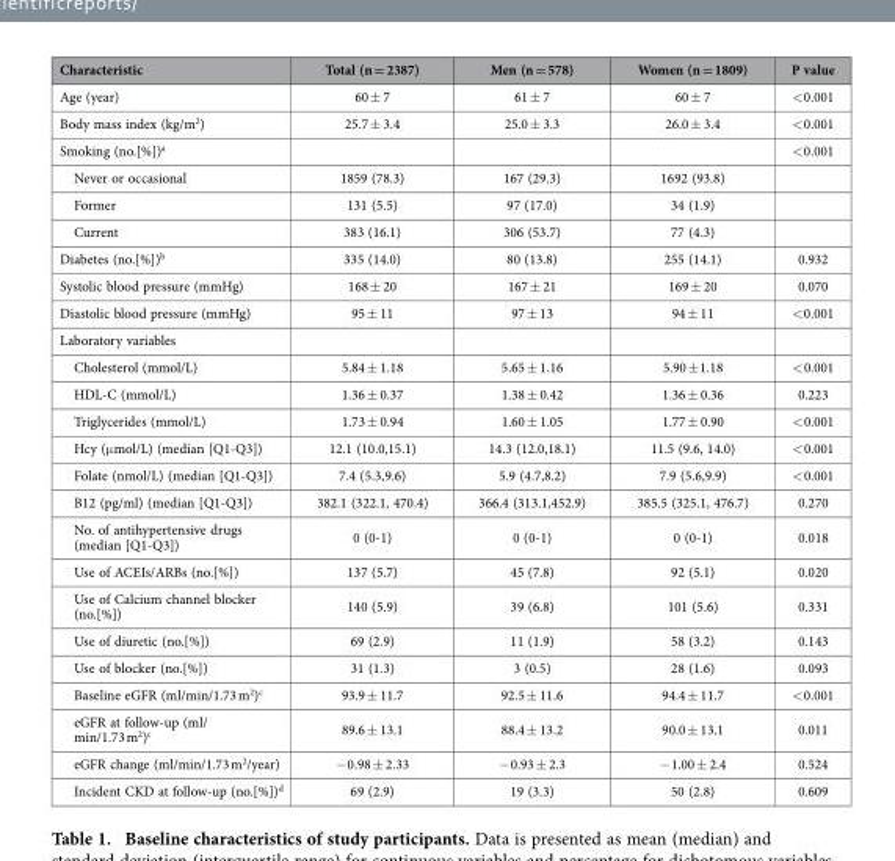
<table><thead><tr><td>Characteristic</td><td>Total (n = 2387)</td><td>Men (n = 578)</td><td>Women (n = 1809)</td><td>P value</td></tr></thead><tbody><tr><td>Age (year)</td><td>60 ± 7</td><td>61 ± 7</td><td>60 ± 7</td><td>&lt; 0.001</td></tr><tr><td>Body mass index (kg/m<sup>2</sup>)</td><td>25.7 ± 3.4</td><td>25.0 ± 3.3</td><td>26.0 ± 3.4</td><td>&lt; 0.001</td></tr><tr><td>Smoking (no.[%])<sup>a</sup></td><td></td><td></td><td></td><td>&lt; 0.001</td></tr><tr><td>Never or occasional</td><td>1859 (78.3)</td><td>167 (29.3)</td><td>1692 (93.8)</td><td></td></tr><tr><td>Former</td><td>131 (5.5)</td><td>97 (17.0)</td><td>34 (1.9)</td><td></td></tr><tr><td>Current</td><td>383 (16.1)</td><td>306 (53.7)</td><td>77 (4.3)</td><td></td></tr><tr><td>Diabetes (no.[%])<sup>b</sup></td><td>335 (14.0)</td><td>80 (13.8)</td><td>255 (14.1)</td><td>0.932</td></tr><tr><td>Systolic blood pressure (mmHg)</td><td>168 ± 20</td><td>167 ± 21</td><td>169 ± 20</td><td>0.070</td></tr><tr><td>Diastolic blood pressure (mmHg)</td><td>95 ± 11</td><td>97 ± 13</td><td>94 ± 11</td><td>&lt; 0.001</td></tr><tr><td colspan="5">Laboratory variables</td></tr><tr><td>Cholesterol (mmol/L)</td><td>5.84 ± 1.18</td><td>5.65 ± 1.16</td><td>5.90 ± 1.18</td><td>&lt; 0.001</td></tr><tr><td>HDL-C (mmol/L)</td><td>1.36 ± 0.37</td><td>1.38 ± 0.42</td><td>1.36 ± 0.36</td><td>0.223</td></tr><tr><td>Triglycerides (mmol/L)</td><td>1.73 ± 0.94</td><td>1.60 ± 1.05</td><td>1.77 ± 0.90</td><td>&lt; 0.001</td></tr><tr><td>Hcy (μ mol/L) (median [Q1-Q3])</td><td>12.1 (10.0,15.1)</td><td>14.3 (12.0,18.1)</td><td>11.5 (9.6, 14.0)</td><td>&lt; 0.001</td></tr><tr><td>Folate (nmol/L) (median [Q1-Q3])</td><td>7.4 (5.3,9.6)</td><td>5.9 (4.7,8.2)</td><td>7.9 (5.6,9.9)</td><td>&lt; 0.001</td></tr><tr><td>B12 (pg/ml) (median [Q1-Q3])</td><td>382.1 (322.1, 470.4)</td><td>366.4 (313.1,452.9)</td><td>385.5 (325.1, 476.7)</td><td>0.270</td></tr><tr><td>No. of antihypertensive drugs (median [Q1-Q3])</td><td>0 (0-1)</td><td>0 (0-1)</td><td>0 (0-1)</td><td>0.018</td></tr><tr><td>Use of ACEIs/ARBs (no.[%])</td><td>137 (5.7)</td><td>45 (7.8)</td><td>92 (5.1)</td><td>0.020</td></tr><tr><td>Use of Calcium channel blocker (no.[%])</td><td>140 (5.9)</td><td>39 (6.8)</td><td>101 (5.6)</td><td>0.331</td></tr><tr><td>Use of diuretic (no.[%])</td><td>69 (2.9)</td><td>11 (1.9)</td><td>58 (3.2)</td><td>0.143</td></tr><tr><td>Use of blocker (no.[%])</td><td>31 (1.3)</td><td>3 (0.5)</td><td>28 (1.6)</td><td>0.093</td></tr><tr><td>Baseline eGFR (ml/min/1.73 m<sup>2</sup>)<sup>c</sup></td><td>93.9 ± 11.7</td><td>92.5 ± 11.6</td><td>94.4 ± 11.7</td><td>&lt; 0.001</td></tr><tr><td>eGFR at follow-up (ml/ min/1.73 m<sup>2</sup>)<sup>c</sup></td><td>89.6 ± 13.1</td><td>88.4 ± 13.2</td><td>90.0 ± 13.1</td><td>0.011</td></tr><tr><td>eGFR change (ml/min/1.73 m<sup>2</sup>/year)</td><td>− 0.98 ± 2.33</td><td>− 0.93 ± 2.3</td><td>− 1.00 ± 2.4</td><td>0.524</td></tr><tr><td>Incident CKD at follow-up (no.[%])<sup>d</sup></td><td>69 (2.9)</td><td>19 (3.3)</td><td>50 (2.8)</td><td>0.609</td></tr></tbody></table>